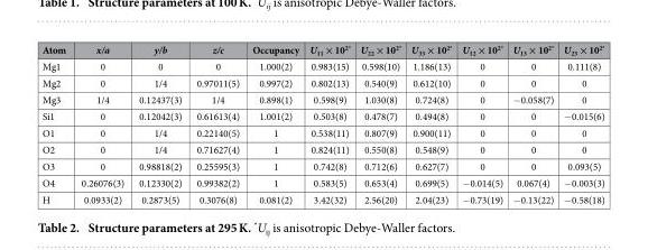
<table><thead><tr><td>Atom</td><td>x/a</td><td>y/b</td><td>z/c</td><td>Occupancy</td><td>U<sub>11</sub> × 10<sup>2</sup>*</td><td>U<sub>22</sub> × 10<sup>2</sup>*</td><td>U<sub>33</sub> × 10<sup>2</sup>*</td><td>U<sub>12</sub> × 10<sup>2</sup>*</td><td>U<sub>13</sub> × 10<sup>2</sup>*</td><td>U<sub>23</sub> × 10<sup>2</sup>*</td></tr></thead><tbody><tr><td>Mg1</td><td>0</td><td>0</td><td>0</td><td>1.000(2)</td><td>0.983(15)</td><td>0.598(10)</td><td>1.186(13)</td><td>0</td><td>0</td><td>0.111(8)</td></tr><tr><td>Mg2</td><td>0</td><td>1/4</td><td>0.97011(5)</td><td>0.997(2)</td><td>0.802(13)</td><td>0.540(9)</td><td>0.612(10)</td><td>0</td><td>0</td><td>0</td></tr><tr><td>Mg3</td><td>1/4</td><td>0.12437(3)</td><td>1/4</td><td>0.898(1)</td><td>0.598(9)</td><td>1.030(8)</td><td>0.724(8)</td><td>0</td><td>− 0.058(7)</td><td>0</td></tr><tr><td>Si1</td><td>0</td><td>0.12042(3)</td><td>0.61613(4)</td><td>1.001(2)</td><td>0.503(8)</td><td>0.478(7)</td><td>0.494(8)</td><td>0</td><td>0</td><td>− 0.015(6)</td></tr><tr><td>O1</td><td>0</td><td>1/4</td><td>0.22140(5)</td><td>1</td><td>0.538(11)</td><td>0.807(9)</td><td>0.900(11)</td><td>0</td><td>0</td><td>0</td></tr><tr><td>O2</td><td>0</td><td>1/4</td><td>0.71627(4)</td><td>1</td><td>0.824(11)</td><td>0.550(8)</td><td>0.548(9)</td><td>0</td><td>0</td><td>0</td></tr><tr><td>O3</td><td>0</td><td>0.98818(2)</td><td>0.25595(3)</td><td>1</td><td>0.742(8)</td><td>0.712(6)</td><td>0.627(7)</td><td>0</td><td>0</td><td>0.093(5)</td></tr><tr><td>O4</td><td>0.26076(3)</td><td>0.12330(2)</td><td>0.99382(2)</td><td>1</td><td>0.583(5)</td><td>0.653(4)</td><td>0.699(5)</td><td>− 0.014(5)</td><td>0.067(4)</td><td>− 0.003(3)</td></tr><tr><td>H</td><td>0.0933(2)</td><td>0.2873(5)</td><td>0.3076(8)</td><td>0.081(2)</td><td>3.42(32)</td><td>2.56(20)</td><td>2.04(23)</td><td>− 0.73(19)</td><td>− 0.13(22)</td><td>− 0.58(18)</td></tr></tbody></table>